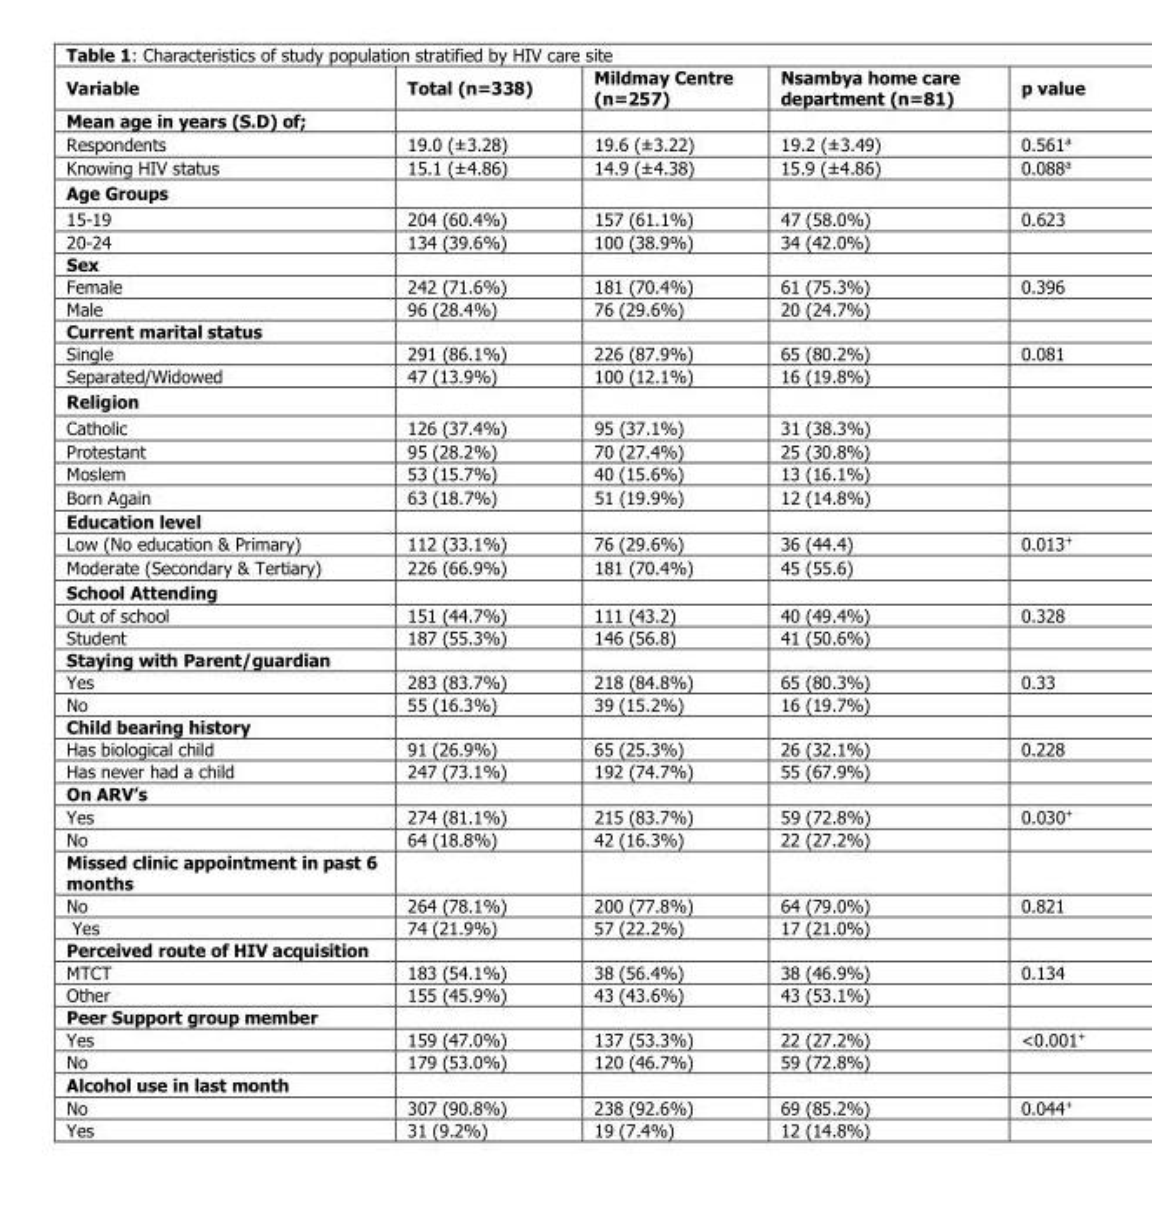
<table><thead><tr><td>Variable</td><td>Total (n=338)</td><td>Mildmay Centre (n=257)</td><td>Nsambya home care department (n=81)</td><td>p value</td></tr></thead><tbody><tr><td colspan="5">Mean age in years (S.D) of;</td></tr><tr><td>Respondents</td><td>19.0 (±3.28)</td><td>19.6 (±3.22)</td><td>19.2 (±3.49)</td><td>0.561<sup>a</sup></td></tr><tr><td>Knowing HIV status</td><td>15.1 (±4.86)</td><td>14.9 (±4.38)</td><td>15.9 (±4.86)</td><td>0.088<sup>a</sup></td></tr><tr><td colspan="5">Age Groups</td></tr><tr><td>15-19</td><td>204 (60.4%)</td><td>157 (61.1%)</td><td>47 (58.0%)</td><td>0.623</td></tr><tr><td>20-24</td><td>134 (39.6%)</td><td>100 (38.9%)</td><td>34 (42.0%)</td><td></td></tr><tr><td colspan="5">Sex</td></tr><tr><td>Female</td><td>242 (71.6%)</td><td>181 (70.4%)</td><td>61 (75.3%)</td><td>0.396</td></tr><tr><td>Male</td><td>96 (28.4%)</td><td>76 (29.6%)</td><td>20 (24.7%)</td><td></td></tr><tr><td colspan="5">Current marital status</td></tr><tr><td>Single</td><td>291 (86.1%)</td><td>226 (87.9%)</td><td>65 (80.2%)</td><td>0.081</td></tr><tr><td>Separated/Widowed</td><td>47 (13.9%)</td><td>100 (12.1%)</td><td>16 (19.8%)</td><td></td></tr><tr><td colspan="5">Religion</td></tr><tr><td>Catholic</td><td>126 (37.4%)</td><td>95 (37.1%)</td><td>31 (38.3%)</td><td></td></tr><tr><td>Protestant</td><td>95 (28.2%)</td><td>70 (27.4%)</td><td>25 (30.8%)</td><td></td></tr><tr><td>Moslem</td><td>53 (15.7%)</td><td>40 (15.6%)</td><td>13 (16.1%)</td><td></td></tr><tr><td>Born Again</td><td>63 (18.7%)</td><td>51 (19.9%)</td><td>12 (14.8%)</td><td></td></tr><tr><td colspan="5">Education level</td></tr><tr><td>Low (No education &amp; Primary)</td><td>112 (33.1%)</td><td>76 (29.6%)</td><td>36 (44.4)</td><td>0.013<sup>+</sup></td></tr><tr><td>Moderate (Secondary &amp; Tertiary)</td><td>226 (66.9%)</td><td>181 (70.4%)</td><td>45 (55.6)</td><td></td></tr><tr><td colspan="5">School Attending</td></tr><tr><td>Out of school</td><td>151 (44.7%)</td><td>111 (43.2)</td><td>40 (49.4%)</td><td>0.328</td></tr><tr><td>Student</td><td>187 (55.3%)</td><td>146 (56.8)</td><td>41 (50.6%)</td><td></td></tr><tr><td colspan="5">Staying with Parent/guardian</td></tr><tr><td>Yes</td><td>283 (83.7%)</td><td>218 (84.8%)</td><td>65 (80.3%)</td><td>0.33</td></tr><tr><td>No</td><td>55 (16.3%)</td><td>39 (15.2%)</td><td>16 (19.7%)</td><td></td></tr><tr><td colspan="5">Child bearing history</td></tr><tr><td>Has biological child</td><td>91 (26.9%)</td><td>65 (25.3%)</td><td>26 (32.1%)</td><td>0.228</td></tr><tr><td>Has never had a child</td><td>247 (73.1%)</td><td>192 (74.7%)</td><td>55 (67.9%)</td><td></td></tr><tr><td colspan="5">On ARV’s</td></tr><tr><td>Yes</td><td>274 (81.1%)</td><td>215 (83.7%)</td><td>59 (72.8%)</td><td>0.030<sup>+</sup></td></tr><tr><td>No</td><td>64 (18.8%)</td><td>42 (16.3%)</td><td>22 (27.2%)</td><td></td></tr><tr><td colspan="5">Missed clinic appointment in past 6 months</td></tr><tr><td>No</td><td>264 (78.1%)</td><td>200 (77.8%)</td><td>64 (79.0%)</td><td>0.821</td></tr><tr><td>Yes</td><td>74 (21.9%)</td><td>57 (22.2%)</td><td>17 (21.0%)</td><td></td></tr><tr><td colspan="5">Perceived route of HIV acquisition</td></tr><tr><td>MTCT</td><td>183 (54.1%)</td><td>38 (56.4%)</td><td>38 (46.9%)</td><td>0.134</td></tr><tr><td>Other</td><td>155 (45.9%)</td><td>43 (43.6%)</td><td>43 (53.1%)</td><td></td></tr><tr><td colspan="5">Peer Support group member</td></tr><tr><td>Yes</td><td>159 (47.0%)</td><td>137 (53.3%)</td><td>22 (27.2%)</td><td>&lt;0.001<sup>+</sup></td></tr><tr><td>No</td><td>179 (53.0%)</td><td>120 (46.7%)</td><td>59 (72.8%)</td><td></td></tr><tr><td colspan="5">Alcohol use in last month</td></tr><tr><td>No</td><td>307 (90.8%)</td><td>238 (92.6%)</td><td>69 (85.2%)</td><td>0.044<sup>+</sup></td></tr><tr><td>Yes</td><td>31 (9.2%)</td><td>19 (7.4%)</td><td>12 (14.8%)</td><td></td></tr></tbody></table>